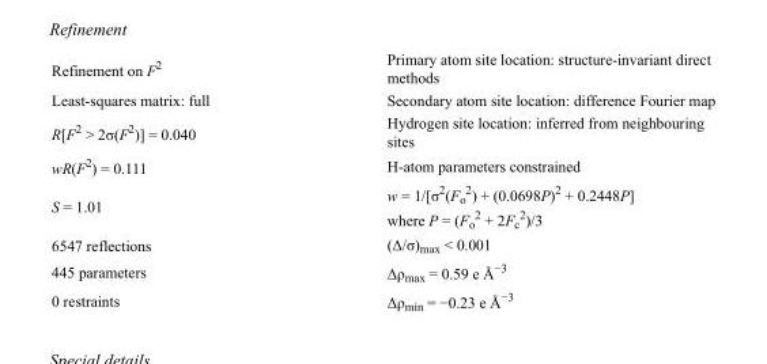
<table><tbody><tr><td>Refinement on F<sup>2</sup></td><td>Primary atom site location: structure-invariant direct methods</td></tr><tr><td>Least-squares matrix: full</td><td>Secondary atom site location: difference Fourier map</td></tr><tr><td>R[F<sup>2</sup> &gt; 2σ(F<sup>2</sup>)] = 0.040</td><td>Hydrogen site location: inferred from neighbouring sites</td></tr><tr><td>wR(F<sup>2</sup>) = 0.111</td><td>H-atom parameters constrained</td></tr><tr><td>S = 1.01</td><td>w = 1/[σ<sup>2</sup>(F<sub>o</sub> <sup>2</sup>) + (0.0698P)<sup>2</sup> + 0.2448P] where P = (F<sub>o</sub> <sup>2</sup> + 2F<sub>c</sub> <sup>2</sup>)/3</td></tr><tr><td>6547 reflections</td><td>(Δ/σ)<sub>max</sub> &lt; 0.001</td></tr><tr><td>445 parameters</td><td>Δρ<sub>max</sub> = 0.59 e Å<sup>−3</sup></td></tr><tr><td>0 restraints</td><td>Δρ<sub>min</sub> = −0.23 e Å<sup>−3</sup></td></tr></tbody></table>